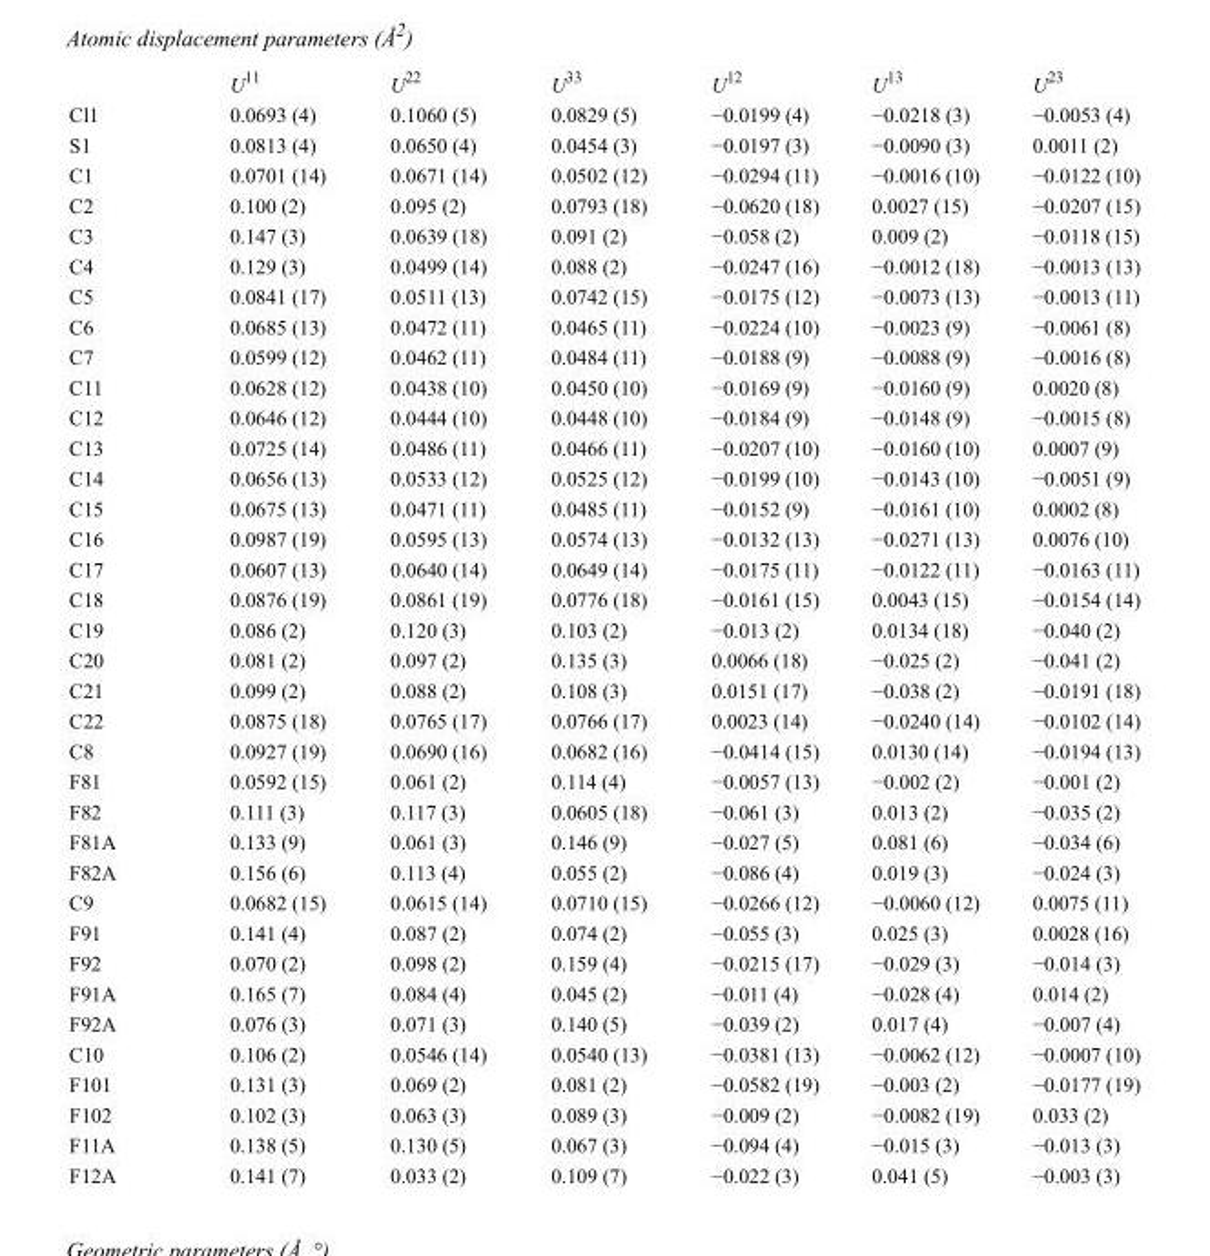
<table><thead><tr><td></td><td>U<sup>11</sup></td><td>U<sup>22</sup></td><td>U<sup>33</sup></td><td>U<sup>12</sup></td><td>U<sup>13</sup></td><td>U<sup>23</sup></td></tr></thead><tbody><tr><td>Cl1</td><td>0.0693 (4)</td><td>0.1060 (5)</td><td>0.0829 (5)</td><td>−0.0199 (4)</td><td>−0.0218 (3)</td><td>−0.0053 (4)</td></tr><tr><td>S1</td><td>0.0813 (4)</td><td>0.0650 (4)</td><td>0.0454 (3)</td><td>−0.0197 (3)</td><td>−0.0090 (3)</td><td>0.0011 (2)</td></tr><tr><td>C1</td><td>0.0701 (14)</td><td>0.0671 (14)</td><td>0.0502 (12)</td><td>−0.0294 (11)</td><td>−0.0016 (10)</td><td>−0.0122 (10)</td></tr><tr><td>C2</td><td>0.100 (2)</td><td>0.095 (2)</td><td>0.0793 (18)</td><td>−0.0620 (18)</td><td>0.0027 (15)</td><td>−0.0207 (15)</td></tr><tr><td>C3</td><td>0.147 (3)</td><td>0.0639 (18)</td><td>0.091 (2)</td><td>−0.058 (2)</td><td>0.009 (2)</td><td>−0.0118 (15)</td></tr><tr><td>C4</td><td>0.129 (3)</td><td>0.0499 (14)</td><td>0.088 (2)</td><td>−0.0247 (16)</td><td>−0.0012 (18)</td><td>−0.0013 (13)</td></tr><tr><td>C5</td><td>0.0841 (17)</td><td>0.0511 (13)</td><td>0.0742 (15)</td><td>−0.0175 (12)</td><td>−0.0073 (13)</td><td>−0.0013 (11)</td></tr><tr><td>C6</td><td>0.0685 (13)</td><td>0.0472 (11)</td><td>0.0465 (11)</td><td>−0.0224 (10)</td><td>−0.0023 (9)</td><td>−0.0061 (8)</td></tr><tr><td>C7</td><td>0.0599 (12)</td><td>0.0462 (11)</td><td>0.0484 (11)</td><td>−0.0188 (9)</td><td>−0.0088 (9)</td><td>−0.0016 (8)</td></tr><tr><td>C11</td><td>0.0628 (12)</td><td>0.0438 (10)</td><td>0.0450 (10)</td><td>−0.0169 (9)</td><td>−0.0160 (9)</td><td>0.0020 (8)</td></tr><tr><td>C12</td><td>0.0646 (12)</td><td>0.0444 (10)</td><td>0.0448 (10)</td><td>−0.0184 (9)</td><td>−0.0148 (9)</td><td>−0.0015 (8)</td></tr><tr><td>C13</td><td>0.0725 (14)</td><td>0.0486 (11)</td><td>0.0466 (11)</td><td>−0.0207 (10)</td><td>−0.0160 (10)</td><td>0.0007 (9)</td></tr><tr><td>C14</td><td>0.0656 (13)</td><td>0.0533 (12)</td><td>0.0525 (12)</td><td>−0.0199 (10)</td><td>−0.0143 (10)</td><td>−0.0051 (9)</td></tr><tr><td>C15</td><td>0.0675 (13)</td><td>0.0471 (11)</td><td>0.0485 (11)</td><td>−0.0152 (9)</td><td>−0.0161 (10)</td><td>0.0002 (8)</td></tr><tr><td>C16</td><td>0.0987 (19)</td><td>0.0595 (13)</td><td>0.0574 (13)</td><td>−0.0132 (13)</td><td>−0.0271 (13)</td><td>0.0076 (10)</td></tr><tr><td>C17</td><td>0.0607 (13)</td><td>0.0640 (14)</td><td>0.0649 (14)</td><td>−0.0175 (11)</td><td>−0.0122 (11)</td><td>−0.0163 (11)</td></tr><tr><td>C18</td><td>0.0876 (19)</td><td>0.0861 (19)</td><td>0.0776 (18)</td><td>−0.0161 (15)</td><td>0.0043 (15)</td><td>−0.0154 (14)</td></tr><tr><td>C19</td><td>0.086 (2)</td><td>0.120 (3)</td><td>0.103 (2)</td><td>−0.013 (2)</td><td>0.0134 (18)</td><td>−0.040 (2)</td></tr><tr><td>C20</td><td>0.081 (2)</td><td>0.097 (2)</td><td>0.135 (3)</td><td>0.0066 (18)</td><td>−0.025 (2)</td><td>−0.041 (2)</td></tr><tr><td>C21</td><td>0.099 (2)</td><td>0.088 (2)</td><td>0.108 (3)</td><td>0.0151 (17)</td><td>−0.038 (2)</td><td>−0.0191 (18)</td></tr><tr><td>C22</td><td>0.0875 (18)</td><td>0.0765 (17)</td><td>0.0766 (17)</td><td>0.0023 (14)</td><td>−0.0240 (14)</td><td>−0.0102 (14)</td></tr><tr><td>C8</td><td>0.0927 (19)</td><td>0.0690 (16)</td><td>0.0682 (16)</td><td>−0.0414 (15)</td><td>0.0130 (14)</td><td>−0.0194 (13)</td></tr><tr><td>F81</td><td>0.0592 (15)</td><td>0.061 (2)</td><td>0.114 (4)</td><td>−0.0057 (13)</td><td>−0.002 (2)</td><td>−0.001 (2)</td></tr><tr><td>F82</td><td>0.111 (3)</td><td>0.117 (3)</td><td>0.0605 (18)</td><td>−0.061 (3)</td><td>0.013 (2)</td><td>−0.035 (2)</td></tr><tr><td>F81A</td><td>0.133 (9)</td><td>0.061 (3)</td><td>0.146 (9)</td><td>−0.027 (5)</td><td>0.081 (6)</td><td>−0.034 (6)</td></tr><tr><td>F82A</td><td>0.156 (6)</td><td>0.113 (4)</td><td>0.055 (2)</td><td>−0.086 (4)</td><td>0.019 (3)</td><td>−0.024 (3)</td></tr><tr><td>C9</td><td>0.0682 (15)</td><td>0.0615 (14)</td><td>0.0710 (15)</td><td>−0.0266 (12)</td><td>−0.0060 (12)</td><td>0.0075 (11)</td></tr><tr><td>F91</td><td>0.141 (4)</td><td>0.087 (2)</td><td>0.074 (2)</td><td>−0.055 (3)</td><td>0.025 (3)</td><td>0.0028 (16)</td></tr><tr><td>F92</td><td>0.070 (2)</td><td>0.098 (2)</td><td>0.159 (4)</td><td>−0.0215 (17)</td><td>−0.029 (3)</td><td>−0.014 (3)</td></tr><tr><td>F91A</td><td>0.165 (7)</td><td>0.084 (4)</td><td>0.045 (2)</td><td>−0.011 (4)</td><td>−0.028 (4)</td><td>0.014 (2)</td></tr><tr><td>F92A</td><td>0.076 (3)</td><td>0.071 (3)</td><td>0.140 (5)</td><td>−0.039 (2)</td><td>0.017 (4)</td><td>−0.007 (4)</td></tr><tr><td>C10</td><td>0.106 (2)</td><td>0.0546 (14)</td><td>0.0540 (13)</td><td>−0.0381 (13)</td><td>−0.0062 (12)</td><td>−0.0007 (10)</td></tr><tr><td>F101</td><td>0.131 (3)</td><td>0.069 (2)</td><td>0.081 (2)</td><td>−0.0582 (19)</td><td>−0.003 (2)</td><td>−0.0177 (19)</td></tr><tr><td>F102</td><td>0.102 (3)</td><td>0.063 (3)</td><td>0.089 (3)</td><td>−0.009 (2)</td><td>−0.0082 (19)</td><td>0.033 (2)</td></tr><tr><td>F11A</td><td>0.138 (5)</td><td>0.130 (5)</td><td>0.067 (3)</td><td>−0.094 (4)</td><td>−0.015 (3)</td><td>−0.013 (3)</td></tr><tr><td>F12A</td><td>0.141 (7)</td><td>0.033 (2)</td><td>0.109 (7)</td><td>−0.022 (3)</td><td>0.041 (5)</td><td>−0.003 (3)</td></tr></tbody></table>